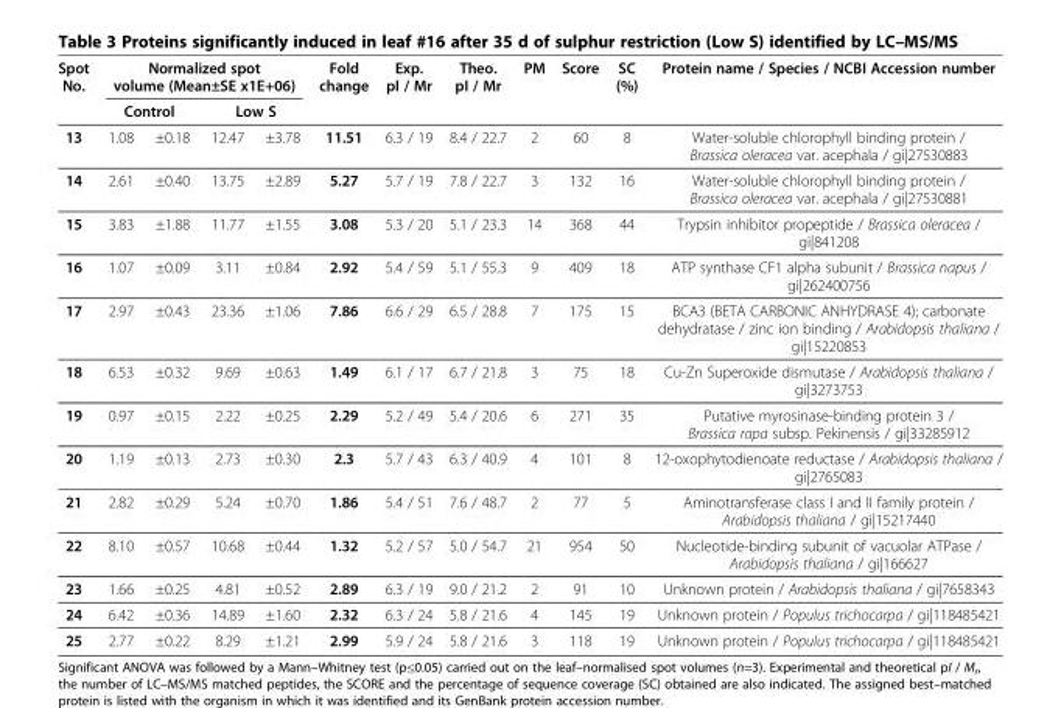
<table><thead><tr><td rowspan="3">Spot No. 13</td><td colspan="4">Normalized spot volume (Mean±SE x1E+06)</td><td rowspan="3">Fold change 11.51</td><td rowspan="3">Exp. pI / Mr 6.3 / 19</td><td rowspan="3">Theo. pI / Mr 8.4 / 22.7</td><td rowspan="3">PM 2</td><td rowspan="3">Score 60</td><td rowspan="3">SC (%) 8</td><td rowspan="3">Protein name / Species / NCBI Accession number Water-soluble chlorophyll binding protein / Brassica oleracea var. acephala / gi|27530883</td></tr><tr><td colspan="2">Control</td><td colspan="2">Low S</td></tr><tr><td>1.08</td><td>±0.18</td><td>12.47</td><td>±3.78</td></tr></thead><tbody><tr><td>14</td><td>2.61</td><td>±0.40</td><td>13.75</td><td>±2.89</td><td>5.27</td><td>5.7 / 19</td><td>7.8 / 22.7</td><td>3</td><td>132</td><td>16</td><td>Water-soluble chlorophyll binding protein / Brassica oleracea var. acephala / gi|27530881</td></tr><tr><td>15</td><td>3.83</td><td>±1.88</td><td>11.77</td><td>±1.55</td><td>3.08</td><td>5.3 / 20</td><td>5.1 / 23.3</td><td>14</td><td>368</td><td>44</td><td>Trypsin inhibitor propeptide / Brassica oleracea / gi|841208</td></tr><tr><td>16</td><td>1.07</td><td>±0.09</td><td>3.11</td><td>±0.84</td><td>2.92</td><td>5.4 / 59</td><td>5.1 / 55.3</td><td>9</td><td>409</td><td>18</td><td>ATP synthase CF1 alpha subunit / Brassica napus / gi|262400756</td></tr><tr><td>17</td><td>2.97</td><td>±0.43</td><td>23.36</td><td>±1.06</td><td>7.86</td><td>6.6 / 29</td><td>6.5 / 28.8</td><td>7</td><td>175</td><td>15</td><td>BCA3 (BETA CARBONIC ANHYDRASE 4); carbonate dehydratase / zinc ion binding / Arabidopsis thaliana / gi|15220853</td></tr><tr><td>18</td><td>6.53</td><td>±0.32</td><td>9.69</td><td>±0.63</td><td>1.49</td><td>6.1 / 17</td><td>6.7 / 21.8</td><td>3</td><td>75</td><td>18</td><td>Cu-Zn Superoxide dismutase / Arabidopsis thaliana / gi|3273753</td></tr><tr><td>19</td><td>0.97</td><td>±0.15</td><td>2.22</td><td>±0.25</td><td>2.29</td><td>5.2 / 49</td><td>5.4 / 20.6</td><td>6</td><td>271</td><td>35</td><td>Putative myrosinase-binding protein 3 / Brassica rapa subsp. Pekinensis / gi|33285912</td></tr><tr><td>20</td><td>1.19</td><td>±0.13</td><td>2.73</td><td>±0.30</td><td>2.3</td><td>5.7 / 43</td><td>6.3 / 40.9</td><td>4</td><td>101</td><td>8</td><td>12-oxophytodienoate reductase / Arabidopsis thaliana / gi|2765083</td></tr><tr><td>21</td><td>2.82</td><td>±0.29</td><td>5.24</td><td>±0.70</td><td>1.86</td><td>5.4 / 51</td><td>7.6 / 48.7</td><td>2</td><td>77</td><td>5</td><td>Aminotransferase class I and II family protein / Arabidopsis thaliana / gi|15217440</td></tr><tr><td>22</td><td>8.10</td><td>±0.57</td><td>10.68</td><td>±0.44</td><td>1.32</td><td>5.2 / 57</td><td>5.0 / 54.7</td><td>21</td><td>954</td><td>50</td><td>Nucleotide-binding subunit of vacuolar ATPase / Arabidopsis thaliana / gi|166627</td></tr><tr><td>23</td><td>1.66</td><td>±0.25</td><td>4.81</td><td>±0.52</td><td>2.89</td><td>6.3 / 19</td><td>9.0 / 21.2</td><td>2</td><td>91</td><td>10</td><td>Unknown protein / Arabidopsis thaliana / gi|7658343</td></tr><tr><td>24</td><td>6.42</td><td>±0.36</td><td>14.89</td><td>±1.60</td><td>2.32</td><td>6.3 / 24</td><td>5.8 / 21.6</td><td>4</td><td>145</td><td>19</td><td>Unknown protein / Populus trichocarpa / gi|118485421</td></tr><tr><td>25</td><td>2.77</td><td>±0.22</td><td>8.29</td><td>±1.21</td><td>2.99</td><td>5.9 / 24</td><td>5.8 / 21.6</td><td>3</td><td>118</td><td>19</td><td>Unknown protein / Populus trichocarpa / gi|118485421</td></tr></tbody></table>